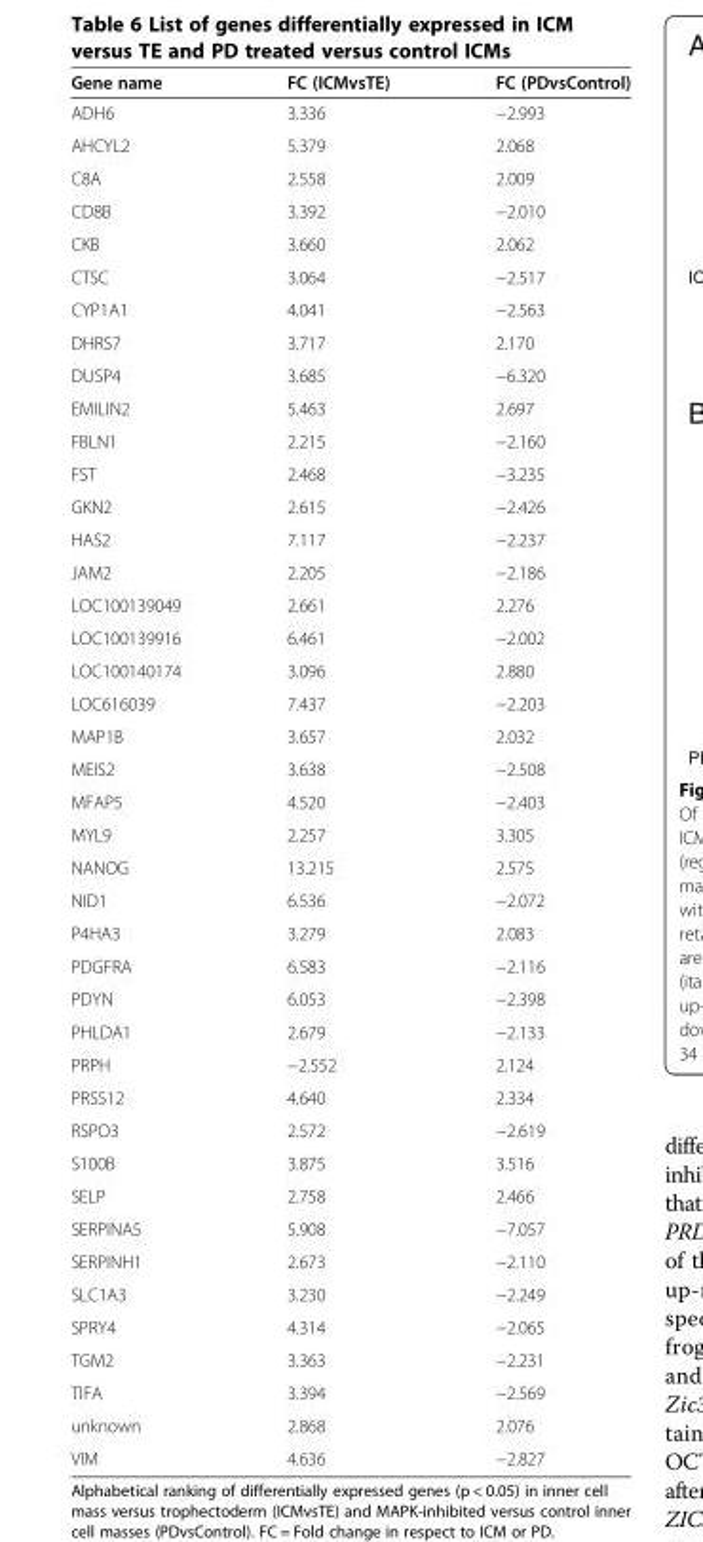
<table><thead><tr><td>Gene name</td><td>FC (ICMvsTE)</td><td>FC (PDvsControl)</td></tr></thead><tbody><tr><td>ADH6</td><td>3.336</td><td>−2.993</td></tr><tr><td>AHCYL2</td><td>5.379</td><td>2.068</td></tr><tr><td>C8A</td><td>2.558</td><td>2.009</td></tr><tr><td>CD8B</td><td>3.392</td><td>−2.010</td></tr><tr><td>CKB</td><td>3.660</td><td>2.062</td></tr><tr><td>CTSC</td><td>3.064</td><td>−2.517</td></tr><tr><td>CYP1A1</td><td>4.041</td><td>−2.563</td></tr><tr><td>DHRS7</td><td>3.717</td><td>2.170</td></tr><tr><td>DUSP4</td><td>3.685</td><td>−6.320</td></tr><tr><td>EMILIN2</td><td>5.463</td><td>2.697</td></tr><tr><td>FBLN1</td><td>2.215</td><td>−2.160</td></tr><tr><td>FST</td><td>2.468</td><td>−3.235</td></tr><tr><td>GKN2</td><td>2.615</td><td>−2.426</td></tr><tr><td>HAS2</td><td>7.117</td><td>−2.237</td></tr><tr><td>JAM2</td><td>2.205</td><td>−2.186</td></tr><tr><td>LOC100139049</td><td>2.661</td><td>2.276</td></tr><tr><td>LOC100139916</td><td>6.461</td><td>−2.002</td></tr><tr><td>LOC100140174</td><td>3.096</td><td>2.880</td></tr><tr><td>LOC616039</td><td>7.437</td><td>−2.203</td></tr><tr><td>MAP1B</td><td>3.657</td><td>2.032</td></tr><tr><td>MEIS2</td><td>3.638</td><td>−2.508</td></tr><tr><td>MFAP5</td><td>4.520</td><td>−2.403</td></tr><tr><td>MYL9</td><td>2.257</td><td>3.305</td></tr><tr><td>NANOG</td><td>13.215</td><td>2.575</td></tr><tr><td>NID1</td><td>6.536</td><td>−2.072</td></tr><tr><td>P4HA3</td><td>3.279</td><td>2.083</td></tr><tr><td>PDGFRA</td><td>6.583</td><td>−2.116</td></tr><tr><td>PDYN</td><td>6.053</td><td>−2.398</td></tr><tr><td>PHLDA1</td><td>2.679</td><td>−2.133</td></tr><tr><td>PRPH</td><td>−2.552</td><td>2.124</td></tr><tr><td>PRSS12</td><td>4.640</td><td>2.334</td></tr><tr><td>RSPO3</td><td>2.572</td><td>−2.619</td></tr><tr><td>S100B</td><td>3.875</td><td>3.516</td></tr><tr><td>SELP</td><td>2.758</td><td>2.466</td></tr><tr><td>SERPINA5</td><td>5.908</td><td>−7.057</td></tr><tr><td>SERPINH1</td><td>2.673</td><td>−2.110</td></tr><tr><td>SLC1A3</td><td>3.230</td><td>−2.249</td></tr><tr><td>SPRY4</td><td>4.314</td><td>−2.065</td></tr><tr><td>TGM2</td><td>3.363</td><td>−2.231</td></tr><tr><td>TIFA</td><td>3.394</td><td>−2.569</td></tr><tr><td>unknown</td><td>2.868</td><td>2.076</td></tr><tr><td>VIM</td><td>4.636</td><td>−2.827</td></tr></tbody></table>